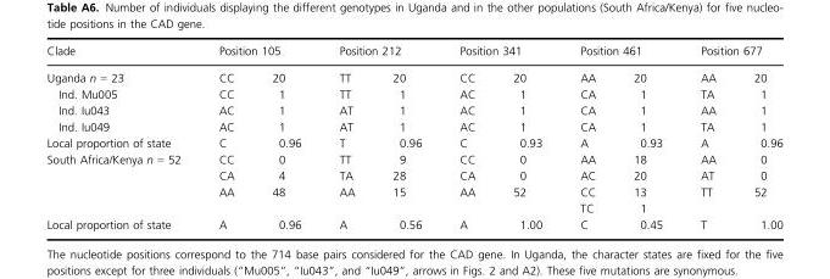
<table><thead><tr><td rowspan="2">Clade Uganda n = 23</td><td colspan="2">Position 105</td><td colspan="2">Position 212</td><td colspan="2">Position 341</td><td colspan="2">Position 461</td><td colspan="2">Position 677</td></tr><tr><td>CC</td><td>20</td><td>TT</td><td>20</td><td>CC</td><td>20</td><td>AA</td><td>20</td><td>AA</td><td>20</td></tr></thead><tbody><tr><td>Ind. Mu005</td><td>CC</td><td>1</td><td>TT</td><td>1</td><td>AC</td><td>1</td><td>CA</td><td>1</td><td>TA</td><td>1</td></tr><tr><td>Ind. Iu043</td><td>AC</td><td>1</td><td>AT</td><td>1</td><td>AC</td><td>1</td><td>CA</td><td>1</td><td>AA</td><td>1</td></tr><tr><td>Ind. Iu049</td><td>AC</td><td>1</td><td>AT</td><td>1</td><td>AC</td><td>1</td><td>CA</td><td>1</td><td>TA</td><td>1</td></tr><tr><td>Local proportion of state</td><td>C</td><td>0.96</td><td>T</td><td>0.96</td><td>C</td><td>0.93</td><td>A</td><td>0.93</td><td>A</td><td>0.96</td></tr><tr><td rowspan="4">South Africa/Kenya n = 52</td><td>CC</td><td>0</td><td>TT</td><td>9</td><td>CC</td><td>0</td><td>AA</td><td>18</td><td>AA</td><td>0</td></tr><tr><td>CA</td><td>4</td><td>TA</td><td>28</td><td>CA</td><td>0</td><td>AC</td><td>20</td><td>AT</td><td>0</td></tr><tr><td>AA</td><td>48</td><td>AA</td><td>15</td><td>AA</td><td>52</td><td>CC</td><td>13</td><td>TT</td><td>52</td></tr><tr><td></td><td></td><td></td><td></td><td></td><td></td><td>TC</td><td>1</td><td></td><td></td></tr><tr><td>Local proportion of state</td><td>A</td><td>0.96</td><td>A</td><td>0.56</td><td>A</td><td>1.00</td><td>C</td><td>0.45</td><td>T</td><td>1.00</td></tr></tbody></table>